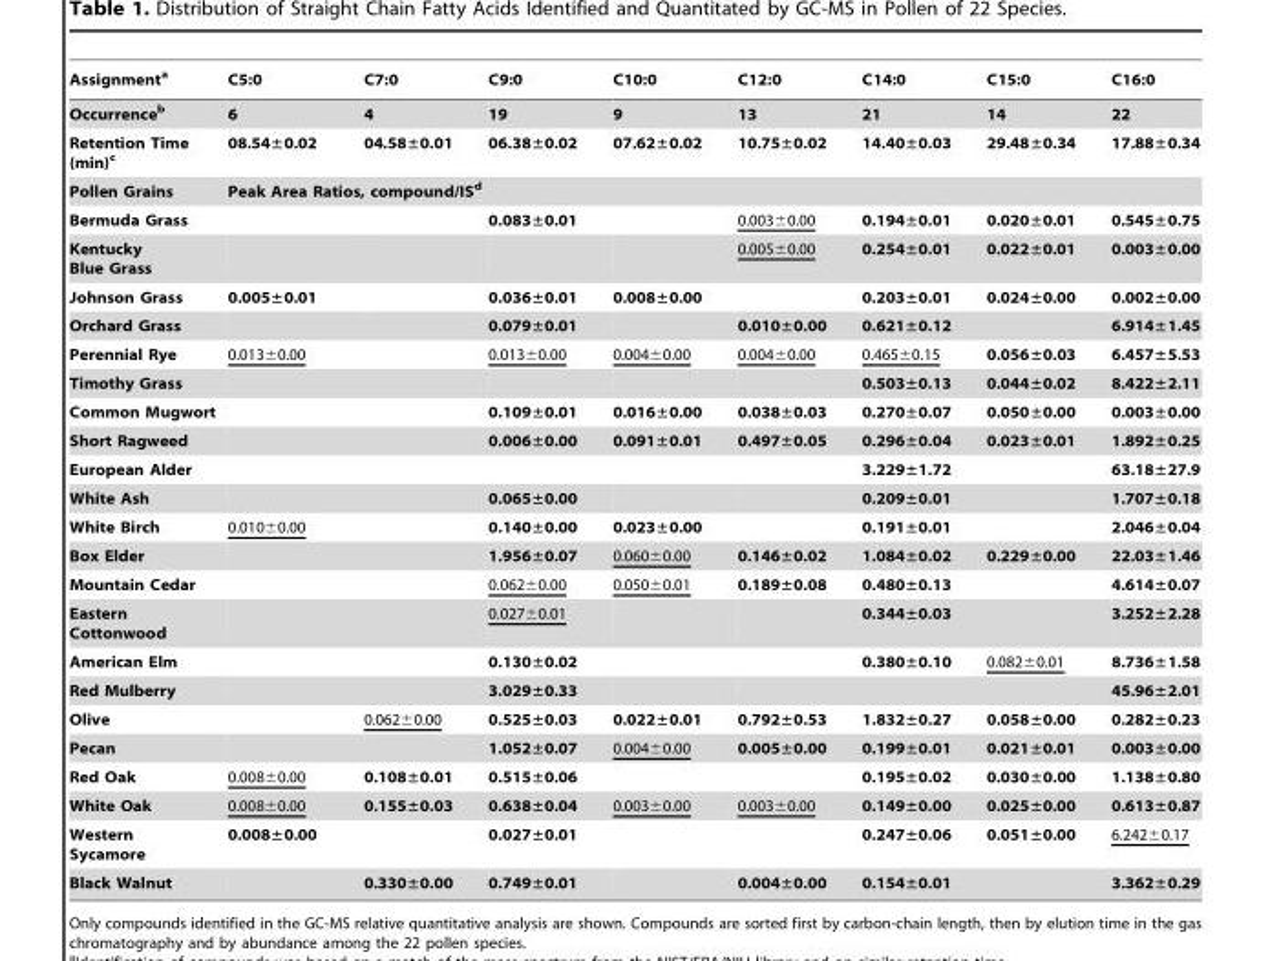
<table><thead><tr><td>Assignment<sup>a</sup></td><td>C5:0</td><td>C7:0</td><td>C9:0</td><td>C10:0</td><td>C12:0</td><td>C14:0</td><td>C15:0</td><td>C16:0</td></tr></thead><tbody><tr><td>Occurrenceb</td><td>6</td><td>4</td><td>19</td><td>9</td><td>13</td><td>21</td><td>14</td><td>22</td></tr><tr><td>Retention Time (min)c</td><td>08.54±0.02</td><td>04.58±0.01</td><td>06.38±0.02</td><td>07.62±0.02</td><td>10.75±0.02</td><td>14.40±0.03</td><td>29.48±0.34</td><td>17.88±0.34</td></tr><tr><td>Pollen Grains</td><td colspan="8">Peak Area Ratios, compound/ISd</td></tr><tr><td>Bermuda Grass</td><td></td><td></td><td>0.083±0.01</td><td></td><td>0.003±0.00</td><td>0.194±0.01</td><td>0.020±0.01</td><td>0.545±0.75</td></tr><tr><td>Kentucky Blue Grass</td><td></td><td></td><td></td><td></td><td>0.005±0.00</td><td>0.254±0.01</td><td>0.022±0.01</td><td>0.003±0.00</td></tr><tr><td>Johnson Grass</td><td>0.005±0.01</td><td></td><td>0.036±0.01</td><td>0.008±0.00</td><td></td><td>0.203±0.01</td><td>0.024±0.00</td><td>0.002±0.00</td></tr><tr><td>Orchard Grass</td><td></td><td></td><td>0.079±0.01</td><td></td><td>0.010±0.00</td><td>0.621±0.12</td><td></td><td>6.914±1.45</td></tr><tr><td>Perennial Rye</td><td>0.013±0.00</td><td></td><td>0.013±0.00</td><td>0.004±0.00</td><td>0.004±0.00</td><td>0.465±0.15</td><td>0.056±0.03</td><td>6.457±5.53</td></tr><tr><td>Timothy Grass</td><td></td><td></td><td></td><td></td><td></td><td>0.503±0.13</td><td>0.044±0.02</td><td>8.422±2.11</td></tr><tr><td>Common Mugwort</td><td></td><td></td><td>0.109±0.01</td><td>0.016±0.00</td><td>0.038±0.03</td><td>0.270±0.07</td><td>0.050±0.00</td><td>0.003±0.00</td></tr><tr><td>Short Ragweed</td><td></td><td></td><td>0.006±0.00</td><td>0.091±0.01</td><td>0.497±0.05</td><td>0.296±0.04</td><td>0.023±0.01</td><td>1.892±0.25</td></tr><tr><td>European Alder</td><td></td><td></td><td></td><td></td><td></td><td>3.229±1.72</td><td></td><td>63.18±27.9</td></tr><tr><td>White Ash</td><td></td><td></td><td>0.065±0.00</td><td></td><td></td><td>0.209±0.01</td><td></td><td>1.707±0.18</td></tr><tr><td>White Birch</td><td>0.010±0.00</td><td></td><td>0.140±0.00</td><td>0.023±0.00</td><td></td><td>0.191±0.01</td><td></td><td>2.046±0.04</td></tr><tr><td>Box Elder</td><td></td><td></td><td>1.956±0.07</td><td>0.060±0.00</td><td>0.146±0.02</td><td>1.084±0.02</td><td>0.229±0.00</td><td>22.03±1.46</td></tr><tr><td>Mountain Cedar</td><td></td><td></td><td>0.062±0.00</td><td>0.050±0.01</td><td>0.189±0.08</td><td>0.480±0.13</td><td></td><td>4.614±0.07</td></tr><tr><td>Eastern Cottonwood</td><td></td><td></td><td>0.027±0.01</td><td></td><td></td><td>0.344±0.03</td><td></td><td>3.252±2.28</td></tr><tr><td>American Elm</td><td></td><td></td><td>0.130±0.02</td><td></td><td></td><td>0.380±0.10</td><td>0.082±0.01</td><td>8.736±1.58</td></tr><tr><td>Red Mulberry</td><td></td><td></td><td>3.029±0.33</td><td></td><td></td><td></td><td></td><td>45.96±2.01</td></tr><tr><td>Olive</td><td></td><td>0.062±0.00</td><td>0.525±0.03</td><td>0.022±0.01</td><td>0.792±0.53</td><td>1.832±0.27</td><td>0.058±0.00</td><td>0.282±0.23</td></tr><tr><td>Pecan</td><td></td><td></td><td>1.052±0.07</td><td>0.004±0.00</td><td>0.005±0.00</td><td>0.199±0.01</td><td>0.021±0.01</td><td>0.003±0.00</td></tr><tr><td>Red Oak</td><td>0.008±0.00</td><td>0.108±0.01</td><td>0.515±0.06</td><td></td><td></td><td>0.195±0.02</td><td>0.030±0.00</td><td>1.138±0.80</td></tr><tr><td>White Oak</td><td>0.008±0.00</td><td>0.155±0.03</td><td>0.638±0.04</td><td>0.003±0.00</td><td>0.003±0.00</td><td>0.149±0.00</td><td>0.025±0.00</td><td>0.613±0.87</td></tr><tr><td>Western Sycamore</td><td>0.008±0.00</td><td></td><td>0.027±0.01</td><td></td><td></td><td>0.247±0.06</td><td>0.051±0.00</td><td>6.242±0.17</td></tr><tr><td>Black Walnut</td><td></td><td>0.330±0.00</td><td>0.749±0.01</td><td></td><td>0.004±0.00</td><td>0.154±0.01</td><td></td><td>3.362±0.29</td></tr></tbody></table>